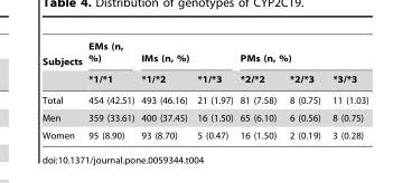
<table><thead><tr><td rowspan="2">Subjects</td><td rowspan="2">EMs (n, %) *1/*1</td><td colspan="2">IMs (n, %)</td><td colspan="3">PMs (n, %)</td></tr><tr><td>*1/*2</td><td>*1/*3</td><td>*2/*2</td><td>*2/*3</td><td>*3/*3</td></tr></thead><tbody><tr><td>Total</td><td>454 (42.51)</td><td>493 (46.16)</td><td>21 (1.97)</td><td>81 (7.58)</td><td>8 (0.75)</td><td>11 (1.03)</td></tr><tr><td>Men</td><td>359 (33.61)</td><td>400 (37.45)</td><td>16 (1.50)</td><td>65 (6.10)</td><td>6 (0.56)</td><td>8 (0.75)</td></tr><tr><td>Women</td><td>95 (8.90)</td><td>93 (8.70)</td><td>5 (0.47)</td><td>16 (1.50)</td><td>2 (0.19)</td><td>3 (0.28)</td></tr></tbody></table>